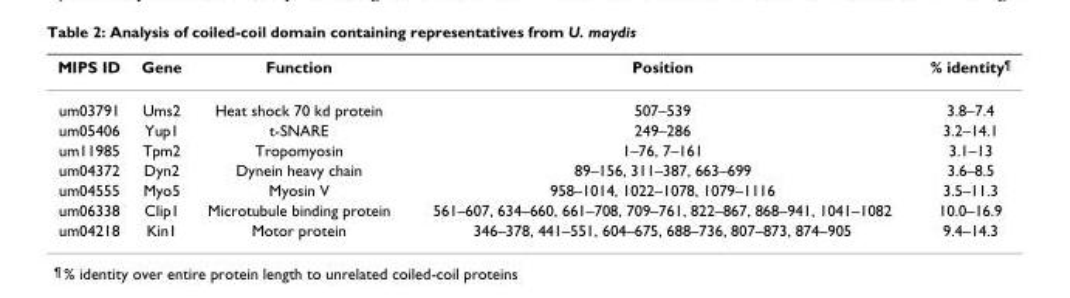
<table><thead><tr><td>MIPS ID</td><td>Gene</td><td>Function</td><td>Position</td><td>% identity<sup>¶</sup></td></tr></thead><tbody><tr><td>um03791</td><td>Ums2</td><td>Heat shock 70 kd protein</td><td>507–539</td><td>3.8–7.4</td></tr><tr><td>um05406</td><td>Yup1</td><td>t-SNARE</td><td>249–286</td><td>3.2–14.1</td></tr><tr><td>um11985</td><td>Tpm2</td><td>Tropomyosin</td><td>1–76, 7–161</td><td>3.1–13</td></tr><tr><td>um04372</td><td>Dyn2</td><td>Dynein heavy chain</td><td>89–156, 311–387, 663–699</td><td>3.6–8.5</td></tr><tr><td>um04555</td><td>Myo5</td><td>Myosin V</td><td>958–1014, 1022–1078, 1079–1116</td><td>3.5–11.3</td></tr><tr><td>um06338</td><td>Clip1</td><td>Microtubule binding protein</td><td>561–607, 634–660, 661–708, 709–761, 822–867, 868–941, 1041–1082</td><td>10.0–16.9</td></tr><tr><td>um04218</td><td>Kin1</td><td>Motor protein</td><td>346–378, 441–551, 604–675, 688–736, 807–873, 874–905</td><td>9.4–14.3</td></tr></tbody></table>